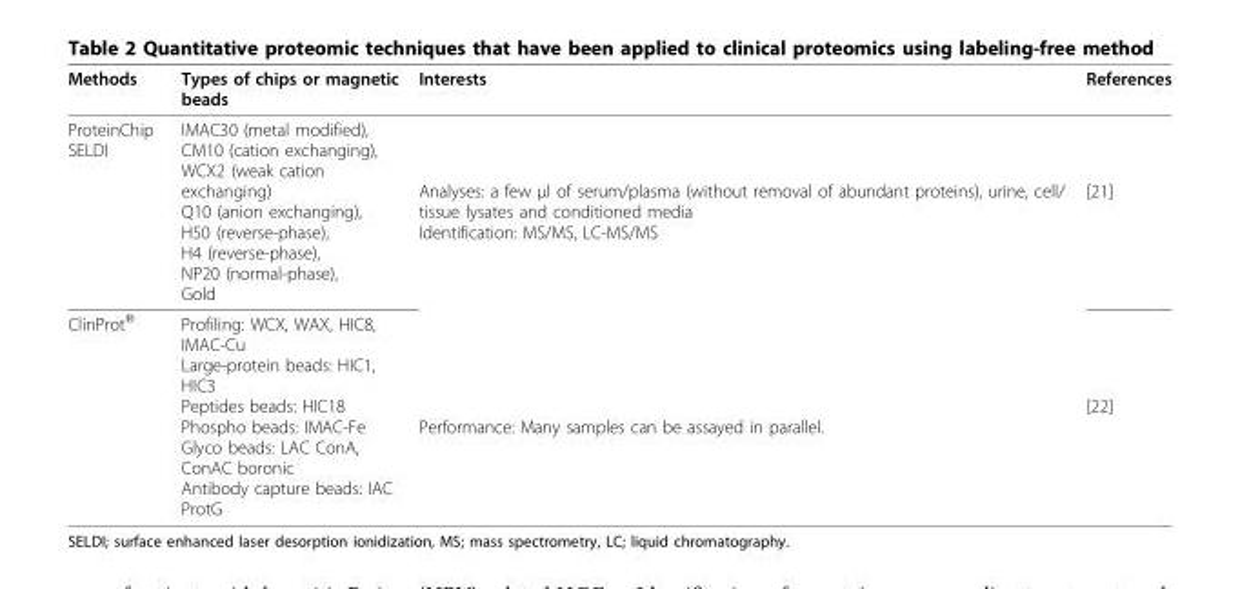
<table><thead><tr><td>Methods</td><td>Types of chips or magnetic beads</td><td>Interests</td><td>References</td></tr></thead><tbody><tr><td>ProteinChip SELDI</td><td>IMAC30 (metal modified), CM10 (cation exchanging), WCX2 (weak cation exchanging) Q10 (anion exchanging), H50 (reverse-phase), H4 (reverse-phase), NP20 (normal-phase), Gold</td><td>Analyses: a few μl of serum/plasma (without removal of abundant proteins), urine, cell/ tissue lysates and conditioned media Identification: MS/MS, LC-MS/MS</td><td>[21]</td></tr><tr><td>ClinProt<sup>®</sup></td><td>Profiling: WCX, WAX, HIC8, IMAC-Cu Large-protein beads: HIC1, HIC3 Peptides beads: HIC18 Phospho beads: IMAC-Fe Glyco beads: LAC ConA, ConAC boronic Antibody capture beads: IAC ProtG</td><td>Performance: Many samples can be assayed in parallel.</td><td>[22]</td></tr></tbody></table>